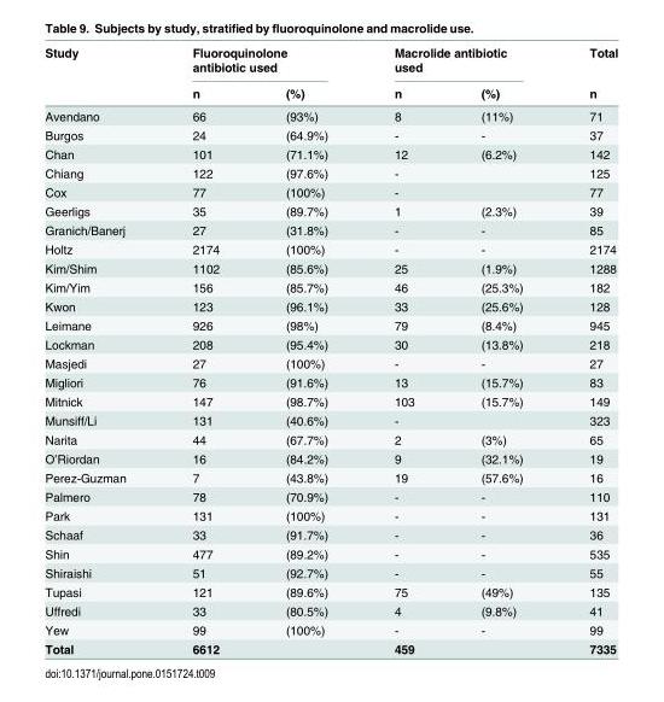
<table><thead><tr><td rowspan="2">Study</td><td colspan="2">Fluoroquinolone antibiotic used</td><td colspan="2">Macrolide antibiotic used</td><td rowspan="2">Total n</td></tr><tr><td>n</td><td>(%)</td><td>n</td><td>(%)</td></tr></thead><tbody><tr><td>Avendano</td><td>66</td><td>(93%)</td><td>8</td><td>(11%)</td><td>71</td></tr><tr><td>Burgos</td><td>24</td><td>(64.9%)</td><td>-</td><td>-</td><td>37</td></tr><tr><td>Chan</td><td>101</td><td>(71.1%)</td><td>12</td><td>(6.2%)</td><td>142</td></tr><tr><td>Chiang</td><td>122</td><td>(97.6%)</td><td>-</td><td></td><td>125</td></tr><tr><td>Cox</td><td>77</td><td>(100%)</td><td>-</td><td></td><td>77</td></tr><tr><td>Geerligs</td><td>35</td><td>(89.7%)</td><td>1</td><td>(2.3%)</td><td>39</td></tr><tr><td>Granich/Banerj</td><td>27</td><td>(31.8%)</td><td>-</td><td>-</td><td>85</td></tr><tr><td>Holtz</td><td>2174</td><td>(100%)</td><td>-</td><td>-</td><td>2174</td></tr><tr><td>Kim/Shim</td><td>1102</td><td>(85.6%)</td><td>25</td><td>(1.9%)</td><td>1288</td></tr><tr><td>Kim/Yim</td><td>156</td><td>(85.7%)</td><td>46</td><td>(25.3%)</td><td>182</td></tr><tr><td>Kwon</td><td>123</td><td>(96.1%)</td><td>33</td><td>(25.6%)</td><td>128</td></tr><tr><td>Leimane</td><td>926</td><td>(98%)</td><td>79</td><td>(8.4%)</td><td>945</td></tr><tr><td>Lockman</td><td>208</td><td>(95.4%)</td><td>30</td><td>(13.8%)</td><td>218</td></tr><tr><td>Masjedi</td><td>27</td><td>(100%)</td><td>-</td><td>-</td><td>27</td></tr><tr><td>Migliori</td><td>76</td><td>(91.6%)</td><td>13</td><td>(15.7%)</td><td>83</td></tr><tr><td>Mitnick</td><td>147</td><td>(98.7%)</td><td>103</td><td>(15.7%)</td><td>149</td></tr><tr><td>Munsiff/Li</td><td>131</td><td>(40.6%)</td><td>-</td><td></td><td>323</td></tr><tr><td>Narita</td><td>44</td><td>(67.7%)</td><td>2</td><td>(3%)</td><td>65</td></tr><tr><td>O’Riordan</td><td>16</td><td>(84.2%)</td><td>9</td><td>(32.1%)</td><td>19</td></tr><tr><td>Perez-Guzman</td><td>7</td><td>(43.8%)</td><td>19</td><td>(57.6%)</td><td>16</td></tr><tr><td>Palmero</td><td>78</td><td>(70.9%)</td><td>-</td><td>-</td><td>110</td></tr><tr><td>Park</td><td>131</td><td>(100%)</td><td>-</td><td>-</td><td>131</td></tr><tr><td>Schaaf</td><td>33</td><td>(91.7%)</td><td>-</td><td>-</td><td>36</td></tr><tr><td>Shin</td><td>477</td><td>(89.2%)</td><td>-</td><td>-</td><td>535</td></tr><tr><td>Shiraishi</td><td>51</td><td>(92.7%)</td><td>-</td><td>-</td><td>55</td></tr><tr><td>Tupasi</td><td>121</td><td>(89.6%)</td><td>75</td><td>(49%)</td><td>135</td></tr><tr><td>Uffredi</td><td>33</td><td>(80.5%)</td><td>4</td><td>(9.8%)</td><td>41</td></tr><tr><td>Yew</td><td>99</td><td>(100%)</td><td>-</td><td>-</td><td>99</td></tr><tr><td>Total</td><td>6612</td><td></td><td>459</td><td></td><td>7335</td></tr></tbody></table>